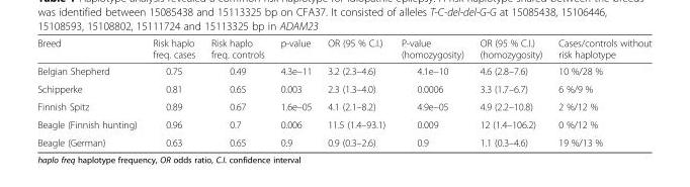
<table><thead><tr><td>Breed</td><td>Risk haplo freq. cases</td><td>Risk haplo freq. controls</td><td>p-value</td><td>OR (95 % C.I.)</td><td>P-value (homozygosity)</td><td>OR (95 % C.I.) (homozygosity)</td><td>Cases/controls without risk haplotype</td></tr></thead><tbody><tr><td>Belgian Shepherd</td><td>0.75</td><td>0.49</td><td>4.3e–11</td><td>3.2 (2.3–4.6)</td><td>4.1e–10</td><td>4.6 (2.8–7.6)</td><td>10 %/28 %</td></tr><tr><td>Schipperke</td><td>0.81</td><td>0.65</td><td>0.003</td><td>2.3 (1.3–4.0)</td><td>0.0006</td><td>3.3 (1.7–6.7)</td><td>6 %/9 %</td></tr><tr><td>Finnish Spitz</td><td>0.89</td><td>0.67</td><td>1.6e–05</td><td>4.1 (2.1–8.2)</td><td>4.9e–05</td><td>4.9 (2.2–10.8)</td><td>2 %/12 %</td></tr><tr><td>Beagle (Finnish hunting)</td><td>0.96</td><td>0.7</td><td>0.006</td><td>11.5 (1.4–93.1)</td><td>0.009</td><td>12 (1.4–106.2)</td><td>0 %/12 %</td></tr><tr><td>Beagle (German)</td><td>0.63</td><td>0.65</td><td>0.9</td><td>0.9 (0.3–2.6)</td><td>0.9</td><td>1.1 (0.3–4.6)</td><td>19 %/13 %</td></tr></tbody></table>